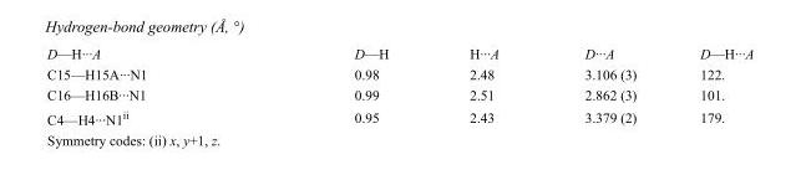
<table><tbody><tr><td>D—H···A</td><td>D—H</td><td>H···A</td><td>D···A</td><td>D—H···A</td></tr><tr><td>C15—H15A···N1</td><td>0.98</td><td>2.48</td><td>3.106 (3)</td><td>122.</td></tr><tr><td>C16—H16B···N1</td><td>0.99</td><td>2.51</td><td>2.862 (3)</td><td>101.</td></tr><tr><td>C4—H4···N1<sup>ii</sup></td><td>0.95</td><td>2.43</td><td>3.379 (2)</td><td>179.</td></tr></tbody></table>